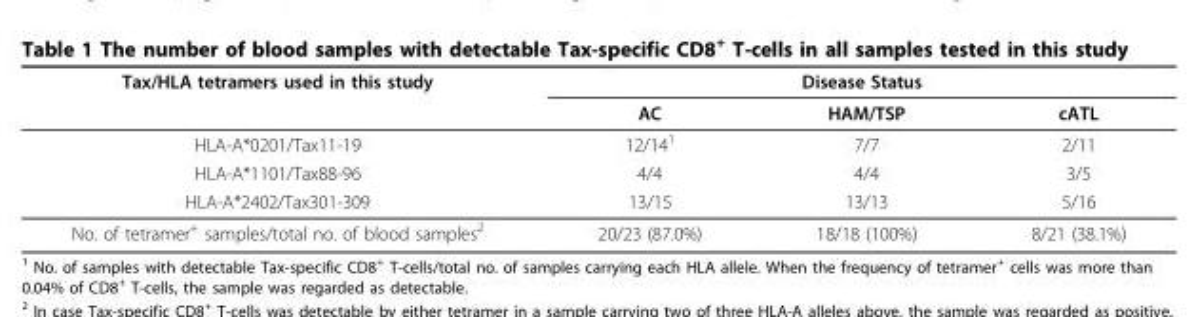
<table><thead><tr><td rowspan="2">Tax/HLA tetramers used in this study</td><td colspan="3">Disease Status</td></tr><tr><td>AC</td><td>HAM/TSP</td><td>cATL</td></tr></thead><tbody><tr><td>HLA-A*0201/Tax11-19</td><td>12/14<sup>1</sup></td><td>7/7</td><td>2/11</td></tr><tr><td>HLA-A*1101/Tax88-96</td><td>4/4</td><td>4/4</td><td>3/5</td></tr><tr><td>HLA-A*2402/Tax301-309</td><td>13/15</td><td>13/13</td><td>5/16</td></tr><tr><td>No. of tetramer<sup>+</sup> samples/total no. of blood samples<sup>2</sup></td><td>20/23 (87.0%)</td><td>18/18 (100%)</td><td>8/21 (38.1%)</td></tr></tbody></table>